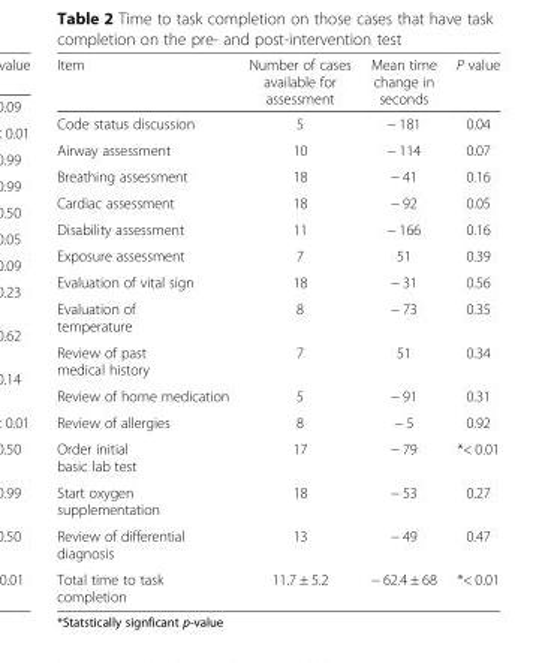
<table><thead><tr><td>Item</td><td>Number of cases available for assessment</td><td>Mean time change in seconds</td><td>P value</td></tr></thead><tbody><tr><td>Code status discussion</td><td>5</td><td>− 181</td><td>0.04</td></tr><tr><td>Airway assessment</td><td>10</td><td>− 114</td><td>0.07</td></tr><tr><td>Breathing assessment</td><td>18</td><td>− 41</td><td>0.16</td></tr><tr><td>Cardiac assessment</td><td>18</td><td>− 92</td><td>0.05</td></tr><tr><td>Disability assessment</td><td>11</td><td>− 166</td><td>0.16</td></tr><tr><td>Exposure assessment</td><td>7</td><td>51</td><td>0.39</td></tr><tr><td>Evaluation of vital sign</td><td>18</td><td>− 31</td><td>0.56</td></tr><tr><td>Evaluation of temperature</td><td>8</td><td>− 73</td><td>0.35</td></tr><tr><td>Review of past medical history</td><td>7</td><td>51</td><td>0.34</td></tr><tr><td>Review of home medication</td><td>5</td><td>− 91</td><td>0.31</td></tr><tr><td>Review of allergies</td><td>8</td><td>− 5</td><td>0.92</td></tr><tr><td>Order initial basic lab test</td><td>17</td><td>− 79</td><td>*&lt; 0.01</td></tr><tr><td>Start oxygen supplementation</td><td>18</td><td>− 53</td><td>0.27</td></tr><tr><td>Review of differential diagnosis</td><td>13</td><td>− 49</td><td>0.47</td></tr><tr><td>Total time to task completion</td><td>11.7 ± 5.2</td><td>− 62.4 ± 68</td><td>*&lt; 0.01</td></tr></tbody></table>